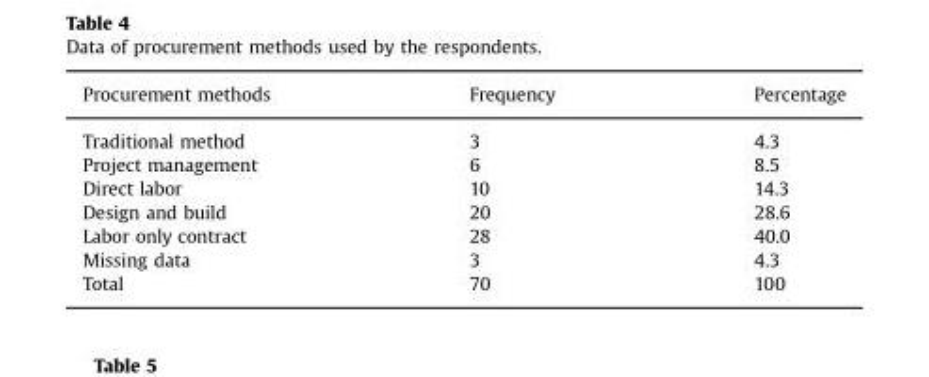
<table><thead><tr><td>Procurement methods</td><td>Frequency</td><td>Percentage</td></tr></thead><tbody><tr><td>Traditional method</td><td>3</td><td>4.3</td></tr><tr><td>Project management</td><td>6</td><td>8.5</td></tr><tr><td>Direct labor</td><td>10</td><td>14.3</td></tr><tr><td>Design and build</td><td>20</td><td>28.6</td></tr><tr><td>Labor only contract</td><td>28</td><td>40.0</td></tr><tr><td>Missing data</td><td>3</td><td>4.3</td></tr><tr><td>Total</td><td>70</td><td>100</td></tr></tbody></table>